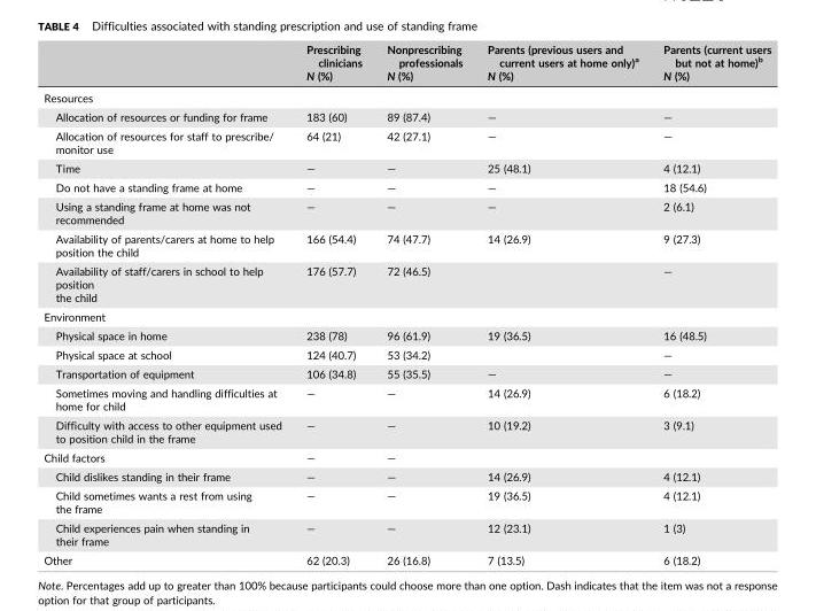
<table><thead><tr><td></td><td>Prescribing clinicians N (%)</td><td>Nonprescribing professionals N (%)</td><td>Parents (previous users and current users at home only)<sup>a</sup> N (%)</td><td>Parents (current users but not at home)<sup>b</sup> N (%)</td></tr></thead><tbody><tr><td colspan="5">Resources</td></tr><tr><td>Allocation of resources or funding for frame</td><td>183 (60)</td><td>89 (87.4)</td><td>—</td><td>—</td></tr><tr><td>Allocation of resources for staff to prescribe/ monitor use</td><td>64 (21)</td><td>42 (27.1)</td><td>—</td><td>—</td></tr><tr><td>Time</td><td>—</td><td>—</td><td>25 (48.1)</td><td>4 (12.1)</td></tr><tr><td>Do not have a standing frame at home</td><td>—</td><td>—</td><td>—</td><td>18 (54.6)</td></tr><tr><td>Using a standing frame at home was not recommended</td><td>—</td><td>—</td><td>—</td><td>2 (6.1)</td></tr><tr><td>Availability of parents/carers at home to help position the child</td><td>166 (54.4)</td><td>74 (47.7)</td><td>14 (26.9)</td><td>9 (27.3)</td></tr><tr><td>Availability of staff/carers in school to help position the child</td><td>176 (57.7)</td><td>72 (46.5)</td><td></td><td>—</td></tr><tr><td colspan="5">Environment</td></tr><tr><td>Physical space in home</td><td>238 (78)</td><td>96 (61.9)</td><td>19 (36.5)</td><td>16 (48.5)</td></tr><tr><td>Physical space at school</td><td>124 (40.7)</td><td>53 (34.2)</td><td></td><td>—</td></tr><tr><td>Transportation of equipment</td><td>106 (34.8)</td><td>55 (35.5)</td><td>—</td><td>—</td></tr><tr><td>Sometimes moving and handling difficulties at home for child</td><td>—</td><td>—</td><td>14 (26.9)</td><td>6 (18.2)</td></tr><tr><td>Difficulty with access to other equipment used to position child in the frame</td><td>—</td><td>—</td><td>10 (19.2)</td><td>3 (9.1)</td></tr><tr><td>Child factors</td><td>—</td><td>—</td><td></td><td></td></tr><tr><td>Child dislikes standing in their frame</td><td>—</td><td>—</td><td>14 (26.9)</td><td>4 (12.1)</td></tr><tr><td>Child sometimes wants a rest from using the frame</td><td>—</td><td>—</td><td>19 (36.5)</td><td>4 (12.1)</td></tr><tr><td>Child experiences pain when standing in their frame</td><td>—</td><td>—</td><td>12 (23.1)</td><td>1 (3)</td></tr><tr><td>Other</td><td>62 (20.3)</td><td>26 (16.8)</td><td>7 (13.5)</td><td>6 (18.2)</td></tr></tbody></table>